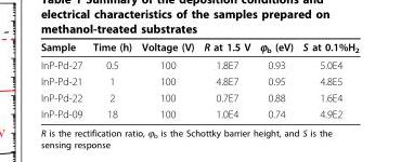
<table><thead><tr><td>Sample</td><td>Time (h)</td><td>Voltage (V)</td><td>R at 1.5 V</td><td>ϕ<sub>b</sub> (eV)</td><td>S at 0.1%H<sub>2</sub></td></tr></thead><tbody><tr><td>InP-Pd-27</td><td>0.5</td><td>100</td><td>1.8E7</td><td>0.93</td><td>5.0E4</td></tr><tr><td>InP-Pd-21</td><td>1</td><td>100</td><td>4.8E7</td><td>0.95</td><td>4.8E5</td></tr><tr><td>InP-Pd-22</td><td>2</td><td>100</td><td>0.7E7</td><td>0.88</td><td>1.6E4</td></tr><tr><td>InP-Pd-09</td><td>18</td><td>100</td><td>1.0E4</td><td>0.74</td><td>4.9E2</td></tr></tbody></table>